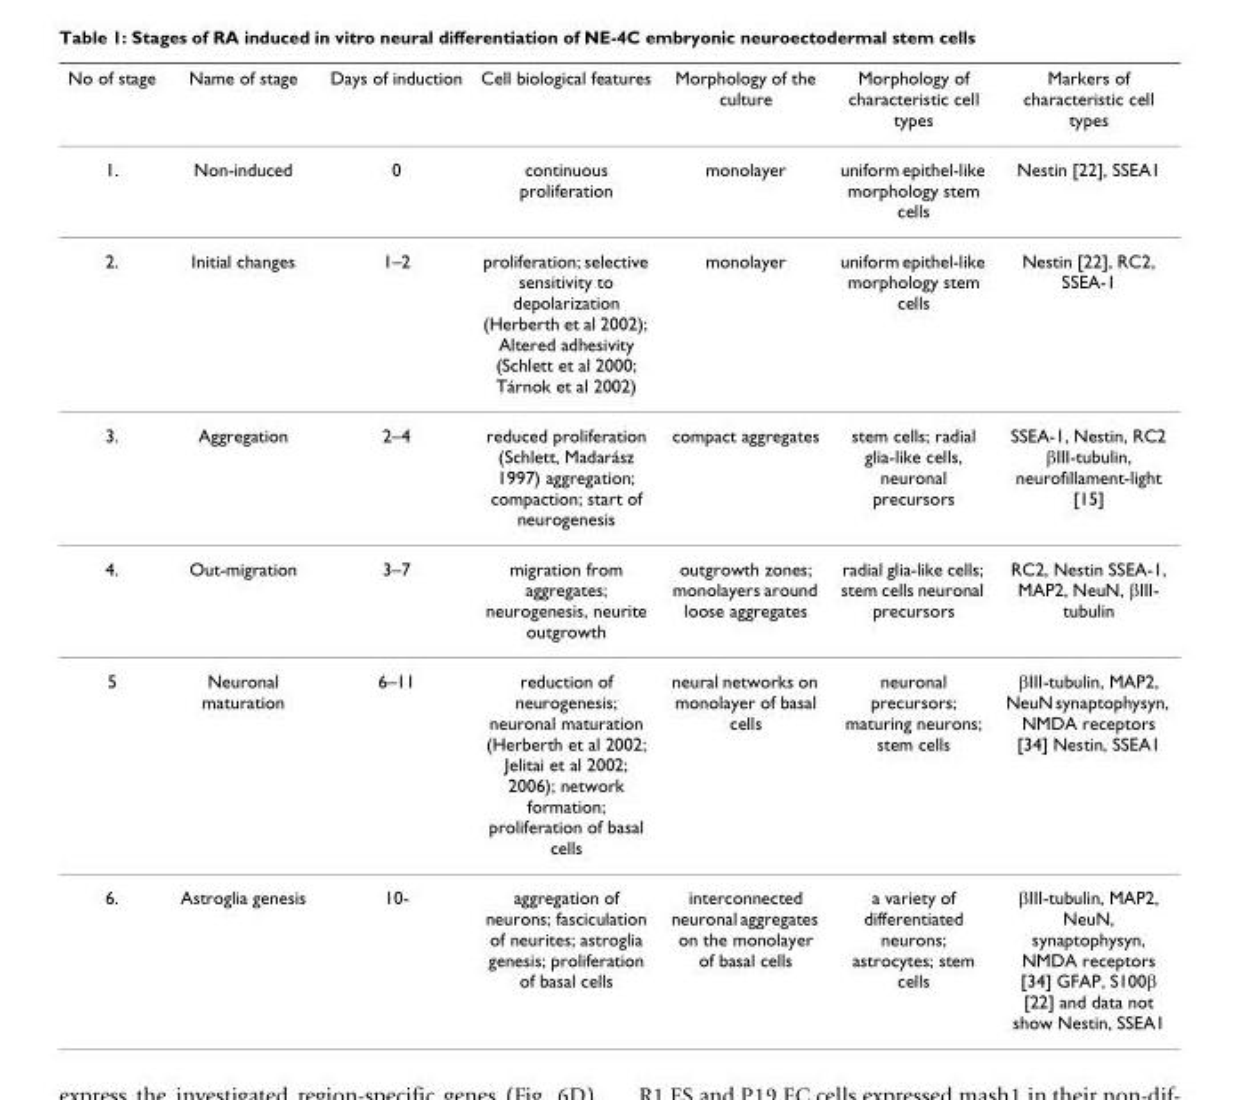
<table><thead><tr><td>No of stage</td><td>Name of stage</td><td>Days of induction</td><td>Cell biological features</td><td>Morphology of the culture</td><td>Morphology of characteristic cell types</td><td>Markers of characteristic cell types</td></tr></thead><tbody><tr><td>1.</td><td>Non-induced</td><td>0</td><td>continuous proliferation</td><td>monolayer</td><td>uniform epithel-like morphology stem cells</td><td>Nestin [22], SSEA1</td></tr><tr><td>2.</td><td>Initial changes</td><td>1–2</td><td>proliferation; selective sensitivity to depolarization (Herberth et al 2002); Altered adhesivity (Schlett et al 2000; Tárnok et al 2002)</td><td>monolayer</td><td>uniform epithel-like morphology stem cells</td><td>Nestin [22], RC2, SSEA-1</td></tr><tr><td>3.</td><td>Aggregation</td><td>2–4</td><td>reduced proliferation (Schlett, Madarász 1997) aggregation; compaction; start of neurogenesis</td><td>compact aggregates</td><td>stem cells; radial glia-like cells, neuronal precursors</td><td>SSEA-1, Nestin, RC2 βIII-tubulin, neurofillament-light [15]</td></tr><tr><td>4.</td><td>Out-migration</td><td>3–7</td><td>migration from aggregates; neurogenesis, neurite outgrowth</td><td>outgrowth zones; monolayers around loose aggregates</td><td>radial glia-like cells; stem cells neuronal precursors</td><td>RC2, Nestin SSEA-1, MAP2, NeuN, βIII- tubulin</td></tr><tr><td>5</td><td>Neuronal maturation</td><td>6–11</td><td>reduction of neurogenesis; neuronal maturation (Herberth et al 2002; Jelitai et al 2002; 2006); network formation; proliferation of basal cells</td><td>neural networks on monolayer of basal cells</td><td>neuronal precursors; maturing neurons; stem cells</td><td>βIII-tubulin, MAP2, NeuN synaptophysyn, NMDA receptors [34] Nestin, SSEA1</td></tr><tr><td>6.</td><td>Astroglia genesis</td><td>10-</td><td>aggregation of neurons; fasciculation of neurites; astroglia genesis; proliferation of basal cells</td><td>interconnected neuronal aggregates on the monolayer of basal cells</td><td>a variety of differentiated neurons; astrocytes; stem cells</td><td>βIII-tubulin, MAP2, NeuN, synaptophysyn, NMDA receptors [34] GFAP, S100β [22] and data not show Nestin, SSEA1</td></tr></tbody></table>